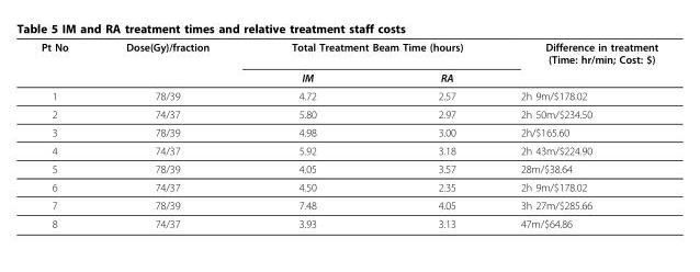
<table><thead><tr><td rowspan="2">Pt No</td><td rowspan="2">Dose(Gy)/fraction</td><td colspan="2">Total Treatment Beam Time (hours)</td><td rowspan="2">Difference in treatment (Time: hr/min; Cost: $)</td></tr><tr><td>IM</td><td>RA</td></tr></thead><tbody><tr><td>1</td><td>78/39</td><td>4.72</td><td>2.57</td><td>2h 9m/$178.02</td></tr><tr><td>2</td><td>74/37</td><td>5.80</td><td>2.97</td><td>2h 50m/$234.50</td></tr><tr><td>3</td><td>78/39</td><td>4.98</td><td>3.00</td><td>2h/$165.60</td></tr><tr><td>4</td><td>74/37</td><td>5.92</td><td>3.18</td><td>2h 43m/$224.90</td></tr><tr><td>5</td><td>78/39</td><td>4.05</td><td>3.57</td><td>28m/$38.64</td></tr><tr><td>6</td><td>74/37</td><td>4.50</td><td>2.35</td><td>2h 9m/$178.02</td></tr><tr><td>7</td><td>78/39</td><td>7.48</td><td>4.05</td><td>3h 27m/$285.66</td></tr><tr><td>8</td><td>74/37</td><td>3.93</td><td>3.13</td><td>47m/$64.86</td></tr></tbody></table>